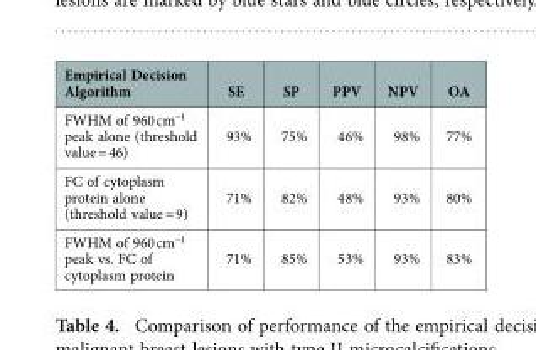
<table><thead><tr><td>Empirical Decision Algorithm</td><td>SE</td><td>SP</td><td>PPV</td><td>NPV</td><td>OA</td></tr></thead><tbody><tr><td>FWHM of 960 cm<sup>−1</sup> peak alone (threshold value = 46)</td><td>93%</td><td>75%</td><td>46%</td><td>98%</td><td>77%</td></tr><tr><td>FC of cytoplasm protein alone (threshold value = 9)</td><td>71%</td><td>82%</td><td>48%</td><td>93%</td><td>80%</td></tr><tr><td>FWHM of 960 cm<sup>−1</sup> peak vs. FC of cytoplasm protein</td><td>71%</td><td>85%</td><td>53%</td><td>93%</td><td>83%</td></tr></tbody></table>